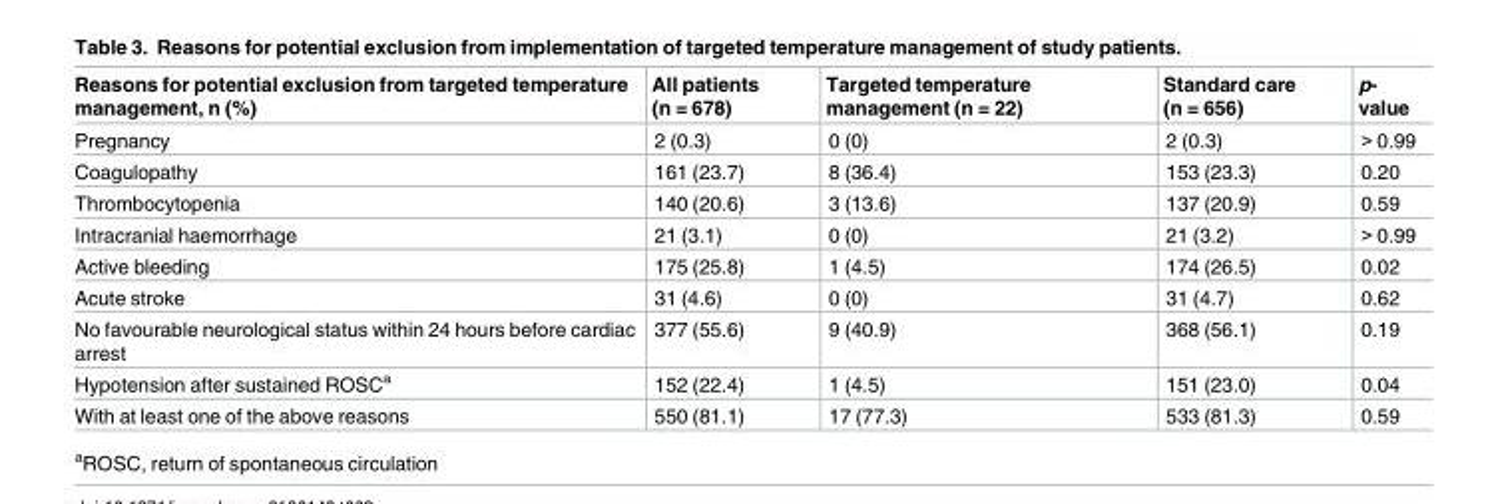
<table><thead><tr><td>Reasons for potential exclusion from targeted temperature management, n (%)</td><td>All patients (n = 678)</td><td>Targeted temperature management (n = 22)</td><td>Standard care (n = 656)</td><td>p- value</td></tr></thead><tbody><tr><td>Pregnancy</td><td>2 (0.3)</td><td>0 (0)</td><td>2 (0.3)</td><td>&gt; 0.99</td></tr><tr><td>Coagulopathy</td><td>161 (23.7)</td><td>8 (36.4)</td><td>153 (23.3)</td><td>0.20</td></tr><tr><td>Thrombocytopenia</td><td>140 (20.6)</td><td>3 (13.6)</td><td>137 (20.9)</td><td>0.59</td></tr><tr><td>Intracranial haemorrhage</td><td>21 (3.1)</td><td>0 (0)</td><td>21 (3.2)</td><td>&gt; 0.99</td></tr><tr><td>Active bleeding</td><td>175 (25.8)</td><td>1 (4.5)</td><td>174 (26.5)</td><td>0.02</td></tr><tr><td>Acute stroke</td><td>31 (4.6)</td><td>0 (0)</td><td>31 (4.7)</td><td>0.62</td></tr><tr><td>No favourable neurological status within 24 hours before cardiac arrest</td><td>377 (55.6)</td><td>9 (40.9)</td><td>368 (56.1)</td><td>0.19</td></tr><tr><td>Hypotension after sustained ROSC<sup>a</sup></td><td>152 (22.4)</td><td>1 (4.5)</td><td>151 (23.0)</td><td>0.04</td></tr><tr><td>With at least one of the above reasons</td><td>550 (81.1)</td><td>17 (77.3)</td><td>533 (81.3)</td><td>0.59</td></tr></tbody></table>